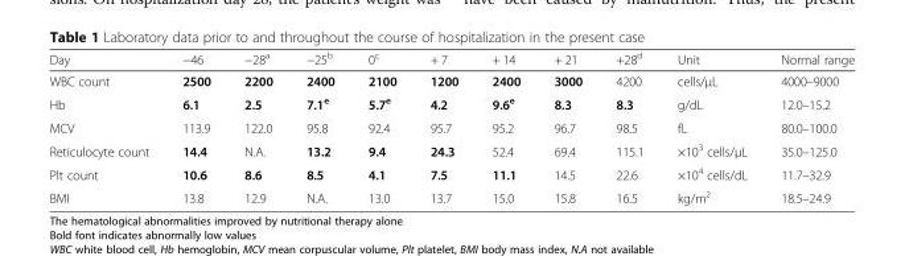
<table><thead><tr><td>Day</td><td>−46</td><td>−28<sup>a</sup></td><td>−25<sup>b</sup></td><td>0<sup>c</sup></td><td>+ 7</td><td>+ 14</td><td>+ 21</td><td>+28<sup>d</sup></td><td>Unit</td><td>Normal range</td></tr></thead><tbody><tr><td>WBC count</td><td>2500</td><td>2200</td><td>2400</td><td>2100</td><td>1200</td><td>2400</td><td>3000</td><td>4200</td><td>cells/μL</td><td>4000–9000</td></tr><tr><td>Hb</td><td>6.1</td><td>2.5</td><td>7.1<sup>e</sup></td><td>5.7<sup>e</sup></td><td>4.2</td><td>9.6<sup>e</sup></td><td>8.3</td><td>8.3</td><td>g/dL</td><td>12.0–15.2</td></tr><tr><td>MCV</td><td>113.9</td><td>122.0</td><td>95.8</td><td>92.4</td><td>95.7</td><td>95.2</td><td>96.7</td><td>98.5</td><td>fL</td><td>80.0–100.0</td></tr><tr><td>Reticulocyte count</td><td>14.4</td><td>N.A.</td><td>13.2</td><td>9.4</td><td>24.3</td><td>52.4</td><td>69.4</td><td>115.1</td><td>×10<sup>3</sup> cells/μL</td><td>35.0–125.0</td></tr><tr><td>Plt count</td><td>10.6</td><td>8.6</td><td>8.5</td><td>4.1</td><td>7.5</td><td>11.1</td><td>14.5</td><td>22.6</td><td>×10<sup>4</sup> cells/dL</td><td>11.7–32.9</td></tr><tr><td>BMI</td><td>13.8</td><td>12.9</td><td>N.A.</td><td>13.0</td><td>13.7</td><td>15.0</td><td>15.8</td><td>16.5</td><td>kg/m<sup>2</sup></td><td>18.5–24.9</td></tr></tbody></table>